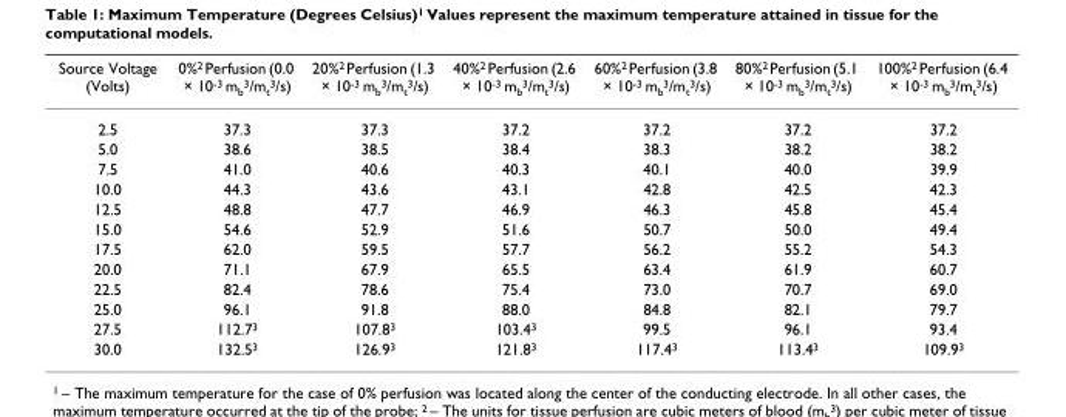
<table><thead><tr><td>Source Voltage (Volts)</td><td>0%<sup>2</sup> Perfusion (0.0 × 10<sup>-3</sup> m<sub>b</sub><sup>3</sup>/m<sub>t</sub><sup>3</sup>/s)</td><td>20%<sup>2</sup> Perfusion (1.3 × 10<sup>-3</sup> m<sub>b</sub><sup>3</sup>/m<sub>t</sub><sup>3</sup>/s)</td><td>40%<sup>2</sup> Perfusion (2.6 × 10<sup>-3</sup> m<sub>b</sub><sup>3</sup>/m<sub>t</sub><sup>3</sup>/s)</td><td>60%<sup>2</sup> Perfusion (3.8 × 10<sup>-3</sup> m<sub>b</sub><sup>3</sup>/m<sub>t</sub><sup>3</sup>/s)</td><td>80%<sup>2</sup> Perfusion (5.1 × 10<sup>-3</sup> m<sub>b</sub><sup>3</sup>/m<sub>t</sub><sup>3</sup>/s)</td><td>100%<sup>2</sup> Perfusion (6.4 × 10<sup>-3</sup> m<sub>b</sub><sup>3</sup>/m<sub>t</sub><sup>3</sup>/s)</td></tr></thead><tbody><tr><td>2.5</td><td>37.3</td><td>37.3</td><td>37.2</td><td>37.2</td><td>37.2</td><td>37.2</td></tr><tr><td>5.0</td><td>38.6</td><td>38.5</td><td>38.4</td><td>38.3</td><td>38.2</td><td>38.2</td></tr><tr><td>7.5</td><td>41.0</td><td>40.6</td><td>40.3</td><td>40.1</td><td>40.0</td><td>39.9</td></tr><tr><td>10.0</td><td>44.3</td><td>43.6</td><td>43.1</td><td>42.8</td><td>42.5</td><td>42.3</td></tr><tr><td>12.5</td><td>48.8</td><td>47.7</td><td>46.9</td><td>46.3</td><td>45.8</td><td>45.4</td></tr><tr><td>15.0</td><td>54.6</td><td>52.9</td><td>51.6</td><td>50.7</td><td>50.0</td><td>49.4</td></tr><tr><td>17.5</td><td>62.0</td><td>59.5</td><td>57.7</td><td>56.2</td><td>55.2</td><td>54.3</td></tr><tr><td>20.0</td><td>71.1</td><td>67.9</td><td>65.5</td><td>63.4</td><td>61.9</td><td>60.7</td></tr><tr><td>22.5</td><td>82.4</td><td>78.6</td><td>75.4</td><td>73.0</td><td>70.7</td><td>69.0</td></tr><tr><td>25.0</td><td>96.1</td><td>91.8</td><td>88.0</td><td>84.8</td><td>82.1</td><td>79.7</td></tr><tr><td>27.5</td><td>112.7<sup>3</sup></td><td>107.8<sup>3</sup></td><td>103.4<sup>3</sup></td><td>99.5</td><td>96.1</td><td>93.4</td></tr><tr><td>30.0</td><td>132.5<sup>3</sup></td><td>126.9<sup>3</sup></td><td>121.8<sup>3</sup></td><td>117.4<sup>3</sup></td><td>113.4<sup>3</sup></td><td>109.9<sup>3</sup></td></tr></tbody></table>